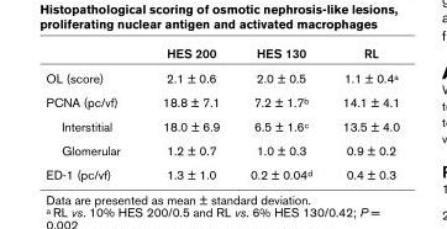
<table><thead><tr><td></td><td>HES 200</td><td>HES 130</td><td>RL</td></tr></thead><tbody><tr><td>OL (score)</td><td>2.1 ± 0.6</td><td>2.0 ± 0.5</td><td>1.1 ± 0.4<sup>a</sup></td></tr><tr><td>PCNA (pc/vf)</td><td>18.8 ± 7.1</td><td>7.2 ± 1.7<sup>b</sup></td><td>14.1 ± 4.1</td></tr><tr><td>Interstitial</td><td>18.0 ± 6.9</td><td>6.5 ± 1.6<sup>c</sup></td><td>13.5 ± 4.0</td></tr><tr><td>Glomerular</td><td>1.2 ± 0.7</td><td>1.0 ± 0.3</td><td>0.9 ± 0.2</td></tr><tr><td>ED-1 (pc/vf)</td><td>1.3 ± 1.0</td><td>0.2 ± 0.04<sup>d</sup></td><td>0.4 ± 0.3</td></tr></tbody></table>